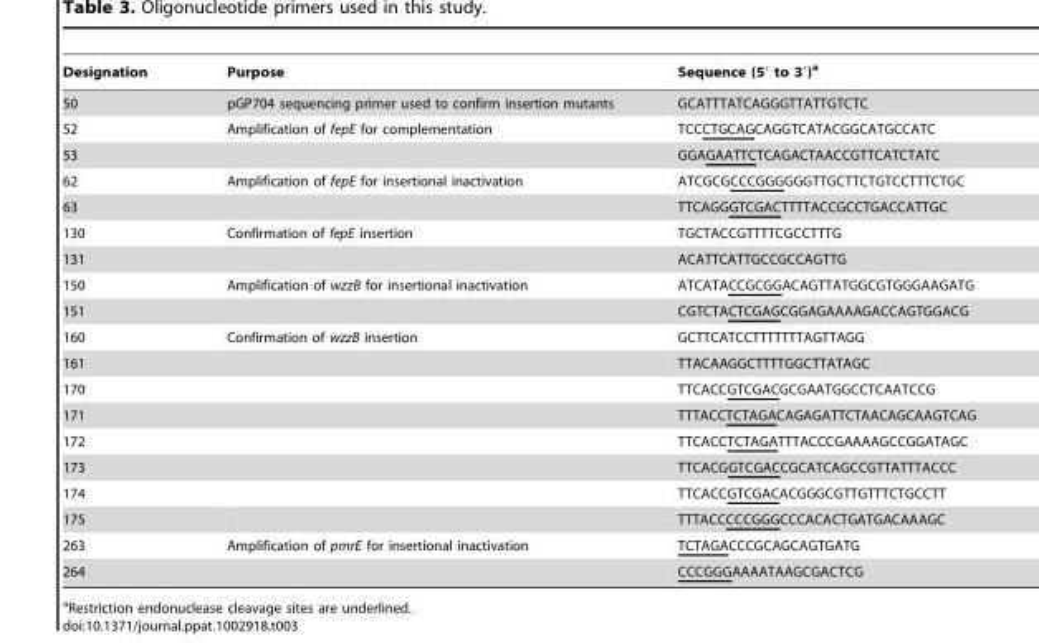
<table><thead><tr><td>Designation</td><td>Purpose</td><td>Sequence (5′ to 3′)<sup>a</sup></td></tr></thead><tbody><tr><td>50</td><td>pGP704 sequencing primer used to confirm insertion mutants</td><td>GCATTTATCAGGGTTATTGTCTC</td></tr><tr><td>52</td><td>Amplification of fepE for complementation</td><td>TCCCTGCAGCAGGTCATACGGCATGCCATC</td></tr><tr><td>53</td><td></td><td>GGAGAATTCTCAGACTAACCGTTCATCTATC</td></tr><tr><td>62</td><td>Amplification of fepE for insertional inactivation</td><td>ATCGCGCCCGGGGGGTTGCTTCTGTCCTTTCTGC</td></tr><tr><td>63</td><td></td><td>TTCAGGGTCGACTTTTACCGCCTGACCATTGC</td></tr><tr><td>130</td><td>Confirmation of fepE insertion</td><td>TGCTACCGTTTTCGCCTTTG</td></tr><tr><td>131</td><td></td><td>ACATTCATTGCCGCCAGTTG</td></tr><tr><td>150</td><td>Amplification of wzzB for insertional inactivation</td><td>ATCATACCGCGGACAGTTATGGCGTGGGAAGATG</td></tr><tr><td>151</td><td></td><td>CGTCTACTCGAGCGGAGAAAAGACCAGTGGACG</td></tr><tr><td>160</td><td>Confirmation of wzzB insertion</td><td>GCTTCATCCTTTTTTTAGTTAGG</td></tr><tr><td>161</td><td></td><td>TTACAAGGCTTTTGGCTTATAGC</td></tr><tr><td>170</td><td></td><td>TTCACCGTCGACGCGAATGGCCTCAATCCG</td></tr><tr><td>171</td><td></td><td>TTTACCTCTAGACAGAGATTCTAACAGCAAGTCAG</td></tr><tr><td>172</td><td></td><td>TTCACCTCTAGATTTACCCGAAAAGCCGGATAGC</td></tr><tr><td>173</td><td></td><td>TTCACGGTCGACCGCATCAGCCGTTATTTACCC</td></tr><tr><td>174</td><td></td><td>TTCACCGTCGACACGGGCGTTGTTTCTGCCTT</td></tr><tr><td>175</td><td></td><td>TTTACCCCCGGGCCCACACTGATGACAAAGC</td></tr><tr><td>263</td><td>Amplification of pmrE for insertional inactivation</td><td>TCTAGACCCGCAGCAGTGATG</td></tr><tr><td>264</td><td></td><td>CCCGGGAAAATAAGCGACTCG</td></tr></tbody></table>